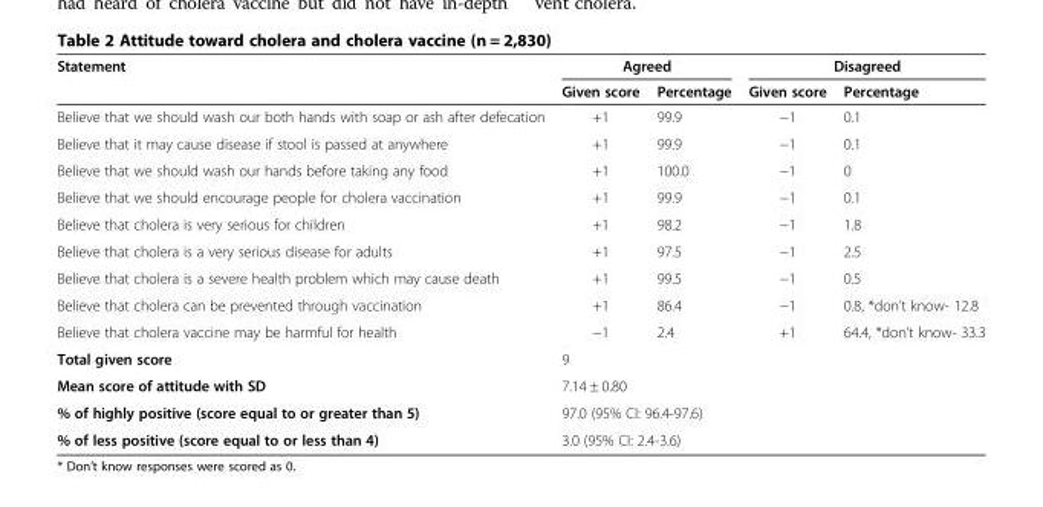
<table><thead><tr><td rowspan="2">Statement</td><td colspan="2">Agreed</td><td colspan="2">Disagreed</td></tr><tr><td>Given score</td><td>Percentage</td><td>Given score</td><td>Percentage</td></tr></thead><tbody><tr><td>Believe that we should wash our both hands with soap or ash after defecation</td><td>+1</td><td>99.9</td><td>−1</td><td>0.1</td></tr><tr><td>Believe that it may cause disease if stool is passed at anywhere</td><td>+1</td><td>99.9</td><td>−1</td><td>0.1</td></tr><tr><td>Believe that we should wash our hands before taking any food</td><td>+1</td><td>100.0</td><td>−1</td><td>0</td></tr><tr><td>Believe that we should encourage people for cholera vaccination</td><td>+1</td><td>99.9</td><td>−1</td><td>0.1</td></tr><tr><td>Believe that cholera is very serious for children</td><td>+1</td><td>98.2</td><td>−1</td><td>1.8</td></tr><tr><td>Believe that cholera is a very serious disease for adults</td><td>+1</td><td>97.5</td><td>−1</td><td>2.5</td></tr><tr><td>Believe that cholera is a severe health problem which may cause death</td><td>+1</td><td>99.5</td><td>−1</td><td>0.5</td></tr><tr><td>Believe that cholera can be prevented through vaccination</td><td>+1</td><td>86.4</td><td>−1</td><td>0.8, *don’t know- 12.8</td></tr><tr><td>Believe that cholera vaccine may be harmful for health</td><td>−1</td><td>2.4</td><td>+1</td><td>64.4, *don’t know- 33.3</td></tr><tr><td>Total given score</td><td colspan="4">9</td></tr><tr><td>Mean score of attitude with SD</td><td colspan="4">7.14 ± 0.80</td></tr><tr><td>% of highly positive (score equal to or greater than 5)</td><td colspan="4">97.0 (95% CI: 96.4-97.6)</td></tr><tr><td>% of less positive (score equal to or less than 4)</td><td colspan="4">3.0 (95% CI: 2.4-3.6)</td></tr></tbody></table>